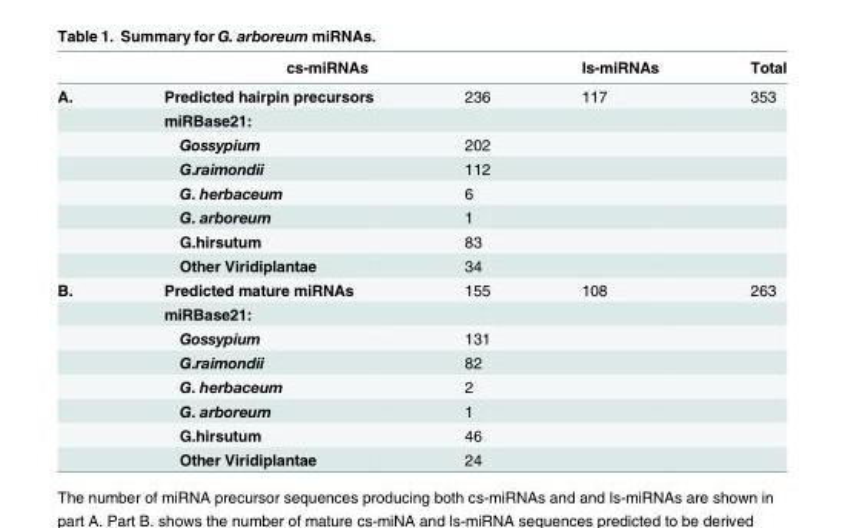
<table><thead><tr><td rowspan="2">A.</td><td colspan="2">cs-miRNAs</td><td rowspan="2">ls-miRNAs 117</td><td rowspan="2">Total 353</td></tr><tr><td>Predicted hairpin precursors</td><td>236</td></tr></thead><tbody><tr><td></td><td>miRBase21:</td><td></td><td></td><td></td></tr><tr><td></td><td>Gossypium</td><td>202</td><td></td><td></td></tr><tr><td></td><td>G.raimondii</td><td>112</td><td></td><td></td></tr><tr><td></td><td>G. herbaceum</td><td>6</td><td></td><td></td></tr><tr><td></td><td>G. arboreum</td><td>1</td><td></td><td></td></tr><tr><td></td><td>G.hirsutum</td><td>83</td><td></td><td></td></tr><tr><td></td><td>Other Viridiplantae</td><td>34</td><td></td><td></td></tr><tr><td rowspan="8">B.</td><td>Predicted mature miRNAs</td><td>155</td><td>108</td><td>263</td></tr><tr><td>miRBase21:</td><td></td><td></td><td></td></tr><tr><td>Gossypium</td><td>131</td><td></td><td></td></tr><tr><td>G.raimondii</td><td>82</td><td></td><td></td></tr><tr><td>G. herbaceum</td><td>2</td><td></td><td></td></tr><tr><td>G. arboreum</td><td>1</td><td></td><td></td></tr><tr><td>G.hirsutum</td><td>46</td><td></td><td></td></tr><tr><td>Other Viridiplantae</td><td>24</td><td></td><td></td></tr></tbody></table>